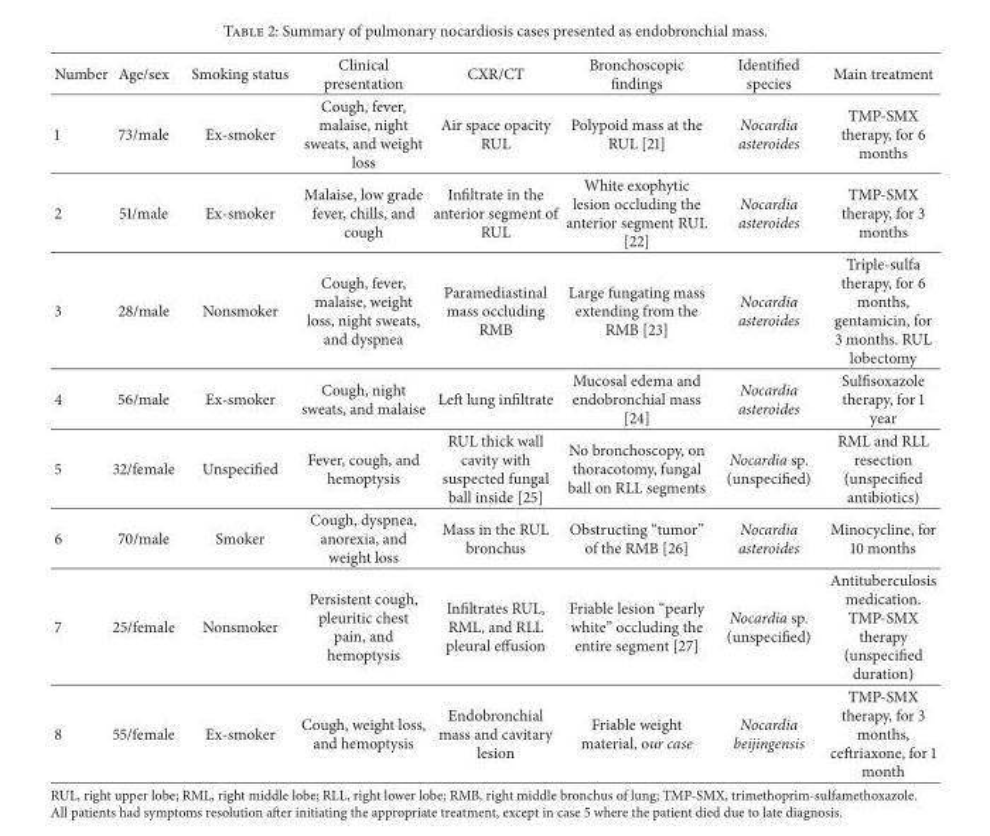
<table><thead><tr><td>Number</td><td>Age/sex</td><td>Smoking status</td><td>Clinical presentation</td><td>CXR/CT</td><td>Bronchoscopic findings</td><td>Identified species</td><td>Main treatment</td></tr></thead><tbody><tr><td>1</td><td>73/male</td><td>Ex-smoker</td><td>Cough, fever, malaise, night sweats, and weight loss</td><td>Air space opacity RUL</td><td>Polypoid mass at the RUL [21]</td><td>Nocardia asteroides</td><td>TMP-SMX therapy, for 6 months</td></tr><tr><td>2</td><td>51/male</td><td>Ex-smoker</td><td>Malaise, low grade fever, chills, and cough</td><td>Infiltrate in the anterior segment of RUL</td><td>White exophytic lesion occluding the anterior segment RUL [22]</td><td>Nocardia asteroides</td><td>TMP-SMX therapy, for 3 months</td></tr><tr><td>3</td><td>28/male</td><td>Nonsmoker</td><td>Cough, fever, malaise, weight loss, night sweats, and dyspnea</td><td>Paramediastinal mass occluding RMB</td><td>Large fungating mass extending from the RMB [23]</td><td>Nocardia asteroides</td><td>Triple-sulfa therapy, for 6 months, gentamicin, for 3 months. RUL lobectomy</td></tr><tr><td>4</td><td>56/male</td><td>Ex-smoker</td><td>Cough, night sweats, and malaise</td><td>Left lung infiltrate</td><td>Mucosal edema and endobronchial mass [24]</td><td>Nocardia asteroides</td><td>Sulfisoxazole therapy, for 1 year</td></tr><tr><td>5</td><td>32/female</td><td>Unspecified</td><td>Fever, cough, and hemoptysis</td><td>RUL thick wall cavity with suspected fungal ball inside [25]</td><td>No bronchoscopy, on thoracotomy, fungal ball on RLL segments</td><td>Nocardia sp. (unspecified)</td><td>RML and RLL resection (unspecified antibiotics)</td></tr><tr><td>6</td><td>70/male</td><td>Smoker</td><td>Cough, dyspnea, anorexia, and weight loss</td><td>Mass in the RUL bronchus</td><td>Obstructing “tumor” of the RMB [26]</td><td>Nocardia asteroides</td><td>Minocycline, for 10 months</td></tr><tr><td>7</td><td>25/female</td><td>Nonsmoker</td><td>Persistent cough, pleuritic chest pain, and hemoptysis</td><td>Infiltrates RUL, RML, and RLL pleural effusion</td><td>Friable lesion “pearly white” occluding the entire segment [27]</td><td>Nocardia sp. (unspecified)</td><td>Antituberculosis medication. TMP-SMX therapy (unspecified duration)</td></tr><tr><td>8</td><td>55/female</td><td>Ex-smoker</td><td>Cough, weight loss, and hemoptysis</td><td>Endobronchial mass and cavitary lesion</td><td>Friable weight material, our case</td><td>Nocardia beijingensis</td><td>TMP-SMX therapy, for 3 months, ceftriaxone, for 1 month</td></tr></tbody></table>